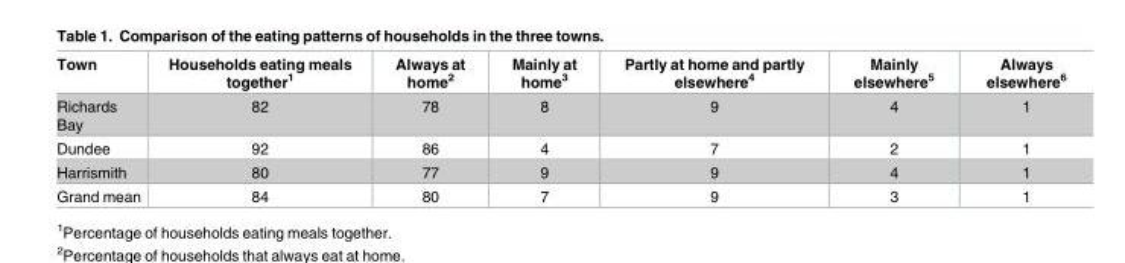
<table><thead><tr><td>Town</td><td>Households eating meals together<sup>1</sup></td><td>Always at home<sup>2</sup></td><td>Mainly at home<sup>3</sup></td><td>Partly at home and partly elsewhere<sup>4</sup></td><td>Mainly elsewhere<sup>5</sup></td><td>Always elsewhere<sup>6</sup></td></tr></thead><tbody><tr><td>Richards Bay</td><td>82</td><td>78</td><td>8</td><td>9</td><td>4</td><td>1</td></tr><tr><td>Dundee</td><td>92</td><td>86</td><td>4</td><td>7</td><td>2</td><td>1</td></tr><tr><td>Harrismith</td><td>80</td><td>77</td><td>9</td><td>9</td><td>4</td><td>1</td></tr><tr><td>Grand mean</td><td>84</td><td>80</td><td>7</td><td>9</td><td>3</td><td>1</td></tr></tbody></table>